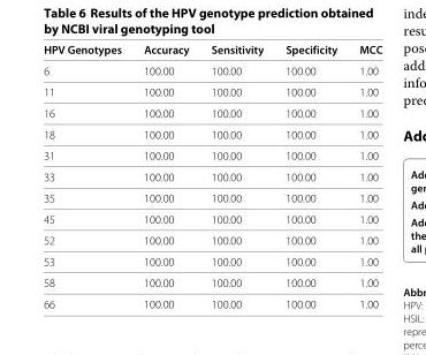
<table><thead><tr><td>HPV Genotypes</td><td>Accuracy</td><td>Sensitivity</td><td>Specificity</td><td>MCC</td></tr></thead><tbody><tr><td>6</td><td>100.00</td><td>100.00</td><td>100.00</td><td>1.00</td></tr><tr><td>11</td><td>100.00</td><td>100.00</td><td>100.00</td><td>1.00</td></tr><tr><td>16</td><td>100.00</td><td>100.00</td><td>100.00</td><td>1.00</td></tr><tr><td>18</td><td>100.00</td><td>100.00</td><td>100.00</td><td>1.00</td></tr><tr><td>31</td><td>100.00</td><td>100.00</td><td>100.00</td><td>1.00</td></tr><tr><td>33</td><td>100.00</td><td>100.00</td><td>100.00</td><td>1.00</td></tr><tr><td>35</td><td>100.00</td><td>100.00</td><td>100.00</td><td>1.00</td></tr><tr><td>45</td><td>100.00</td><td>100.00</td><td>100.00</td><td>1.00</td></tr><tr><td>52</td><td>100.00</td><td>100.00</td><td>100.00</td><td>1.00</td></tr><tr><td>53</td><td>100.00</td><td>100.00</td><td>100.00</td><td>1.00</td></tr><tr><td>58</td><td>100.00</td><td>100.00</td><td>100.00</td><td>1.00</td></tr><tr><td>66</td><td>100.00</td><td>100.00</td><td>100.00</td><td>1.00</td></tr></tbody></table>